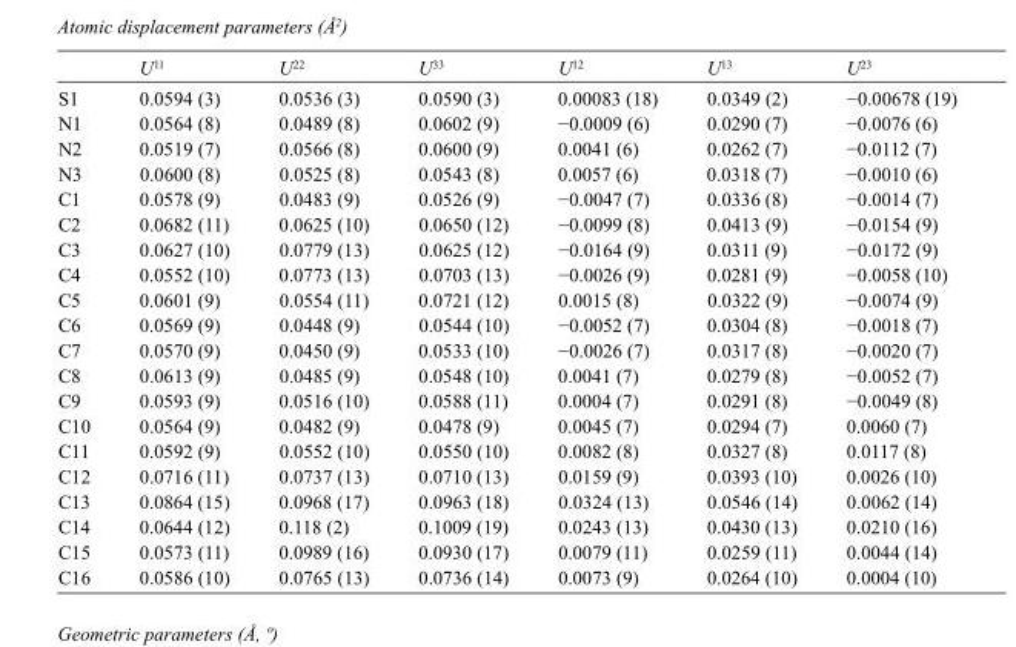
<table><thead><tr><td></td><td>U<sup>11</sup></td><td>U<sup>22</sup></td><td>U<sup>33</sup></td><td>U<sup>12</sup></td><td>U<sup>13</sup></td><td>U<sup>23</sup></td></tr></thead><tbody><tr><td>S1</td><td>0.0594 (3)</td><td>0.0536 (3)</td><td>0.0590 (3)</td><td>0.00083 (18)</td><td>0.0349 (2)</td><td>−0.00678 (19)</td></tr><tr><td>N1</td><td>0.0564 (8)</td><td>0.0489 (8)</td><td>0.0602 (9)</td><td>−0.0009 (6)</td><td>0.0290 (7)</td><td>−0.0076 (6)</td></tr><tr><td>N2</td><td>0.0519 (7)</td><td>0.0566 (8)</td><td>0.0600 (9)</td><td>0.0041 (6)</td><td>0.0262 (7)</td><td>−0.0112 (7)</td></tr><tr><td>N3</td><td>0.0600 (8)</td><td>0.0525 (8)</td><td>0.0543 (8)</td><td>0.0057 (6)</td><td>0.0318 (7)</td><td>−0.0010 (6)</td></tr><tr><td>C1</td><td>0.0578 (9)</td><td>0.0483 (9)</td><td>0.0526 (9)</td><td>−0.0047 (7)</td><td>0.0336 (8)</td><td>−0.0014 (7)</td></tr><tr><td>C2</td><td>0.0682 (11)</td><td>0.0625 (10)</td><td>0.0650 (12)</td><td>−0.0099 (8)</td><td>0.0413 (9)</td><td>−0.0154 (9)</td></tr><tr><td>C3</td><td>0.0627 (10)</td><td>0.0779 (13)</td><td>0.0625 (12)</td><td>−0.0164 (9)</td><td>0.0311 (9)</td><td>−0.0172 (9)</td></tr><tr><td>C4</td><td>0.0552 (10)</td><td>0.0773 (13)</td><td>0.0703 (13)</td><td>−0.0026 (9)</td><td>0.0281 (9)</td><td>−0.0058 (10)</td></tr><tr><td>C5</td><td>0.0601 (9)</td><td>0.0554 (11)</td><td>0.0721 (12)</td><td>0.0015 (8)</td><td>0.0322 (9)</td><td>−0.0074 (9)</td></tr><tr><td>C6</td><td>0.0569 (9)</td><td>0.0448 (9)</td><td>0.0544 (10)</td><td>−0.0052 (7)</td><td>0.0304 (8)</td><td>−0.0018 (7)</td></tr><tr><td>C7</td><td>0.0570 (9)</td><td>0.0450 (9)</td><td>0.0533 (10)</td><td>−0.0026 (7)</td><td>0.0317 (8)</td><td>−0.0020 (7)</td></tr><tr><td>C8</td><td>0.0613 (9)</td><td>0.0485 (9)</td><td>0.0548 (10)</td><td>0.0041 (7)</td><td>0.0279 (8)</td><td>−0.0052 (7)</td></tr><tr><td>C9</td><td>0.0593 (9)</td><td>0.0516 (10)</td><td>0.0588 (11)</td><td>0.0004 (7)</td><td>0.0291 (8)</td><td>−0.0049 (8)</td></tr><tr><td>C10</td><td>0.0564 (9)</td><td>0.0482 (9)</td><td>0.0478 (9)</td><td>0.0045 (7)</td><td>0.0294 (7)</td><td>0.0060 (7)</td></tr><tr><td>C11</td><td>0.0592 (9)</td><td>0.0552 (10)</td><td>0.0550 (10)</td><td>0.0082 (8)</td><td>0.0327 (8)</td><td>0.0117 (8)</td></tr><tr><td>C12</td><td>0.0716 (11)</td><td>0.0737 (13)</td><td>0.0710 (13)</td><td>0.0159 (9)</td><td>0.0393 (10)</td><td>0.0026 (10)</td></tr><tr><td>C13</td><td>0.0864 (15)</td><td>0.0968 (17)</td><td>0.0963 (18)</td><td>0.0324 (13)</td><td>0.0546 (14)</td><td>0.0062 (14)</td></tr><tr><td>C14</td><td>0.0644 (12)</td><td>0.118 (2)</td><td>0.1009 (19)</td><td>0.0243 (13)</td><td>0.0430 (13)</td><td>0.0210 (16)</td></tr><tr><td>C15</td><td>0.0573 (11)</td><td>0.0989 (16)</td><td>0.0930 (17)</td><td>0.0079 (11)</td><td>0.0259 (11)</td><td>0.0044 (14)</td></tr><tr><td>C16</td><td>0.0586 (10)</td><td>0.0765 (13)</td><td>0.0736 (14)</td><td>0.0073 (9)</td><td>0.0264 (10)</td><td>0.0004 (10)</td></tr></tbody></table>